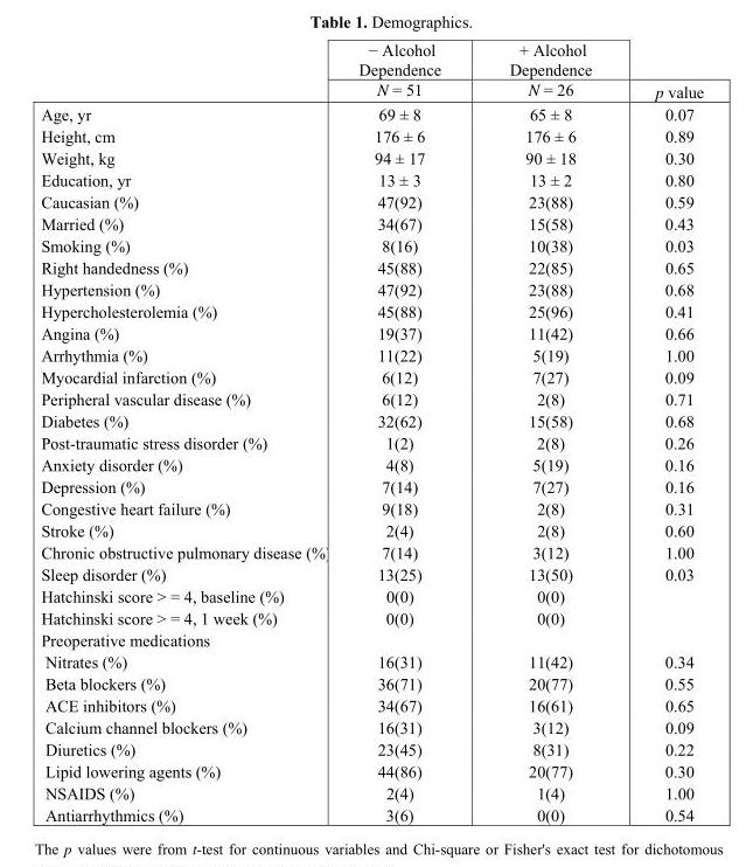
<table><thead><tr><td rowspan="2"></td><td rowspan="2">− Alcohol Dependence N = 51</td><td rowspan="2">+ Alcohol Dependence N = 26</td><td rowspan="2">p value</td></tr><tr></tr></thead><tbody><tr><td>Age, yr</td><td>69 ± 8</td><td>65 ± 8</td><td>0.07</td></tr><tr><td>Height, cm</td><td>176 ± 6</td><td>176 ± 6</td><td>0.89</td></tr><tr><td>Weight, kg</td><td>94 ± 17</td><td>90 ± 18</td><td>0.30</td></tr><tr><td>Education, yr</td><td>13 ± 3</td><td>13 ± 2</td><td>0.80</td></tr><tr><td>Caucasian (%)</td><td>47(92)</td><td>23(88)</td><td>0.59</td></tr><tr><td>Married (%)</td><td>34(67)</td><td>15(58)</td><td>0.43</td></tr><tr><td>Smoking (%)</td><td>8(16)</td><td>10(38)</td><td>0.03</td></tr><tr><td>Right handedness (%)</td><td>45(88)</td><td>22(85)</td><td>0.65</td></tr><tr><td>Hypertension (%)</td><td>47(92)</td><td>23(88)</td><td>0.68</td></tr><tr><td>Hypercholesterolemia (%)</td><td>45(88)</td><td>25(96)</td><td>0.41</td></tr><tr><td>Angina (%)</td><td>19(37)</td><td>11(42)</td><td>0.66</td></tr><tr><td>Arrhythmia (%)</td><td>11(22)</td><td>5(19)</td><td>1.00</td></tr><tr><td>Myocardial infarction (%)</td><td>6(12)</td><td>7(27)</td><td>0.09</td></tr><tr><td>Peripheral vascular disease (%)</td><td>6(12)</td><td>2(8)</td><td>0.71</td></tr><tr><td>Diabetes (%)</td><td>32(62)</td><td>15(58)</td><td>0.68</td></tr><tr><td>Post-traumatic stress disorder (%)</td><td>1(2)</td><td>2(8)</td><td>0.26</td></tr><tr><td>Anxiety disorder (%)</td><td>4(8)</td><td>5(19)</td><td>0.16</td></tr><tr><td>Depression (%)</td><td>7(14)</td><td>7(27)</td><td>0.16</td></tr><tr><td>Congestive heart failure (%)</td><td>9(18)</td><td>2(8)</td><td>0.31</td></tr><tr><td>Stroke (%)</td><td>2(4)</td><td>2(8)</td><td>0.60</td></tr><tr><td>Chronic obstructive pulmonary disease (%)</td><td>7(14)</td><td>3(12)</td><td>1.00</td></tr><tr><td>Sleep disorder (%)</td><td>13(25)</td><td>13(50)</td><td>0.03</td></tr><tr><td>Hatchinski score &gt; = 4, baseline (%)</td><td>0(0)</td><td>0(0)</td><td></td></tr><tr><td>Hatchinski score &gt; = 4, 1 week (%)</td><td>0(0)</td><td>0(0)</td><td></td></tr><tr><td colspan="4">Preoperative medications</td></tr><tr><td>Nitrates (%)</td><td>16(31)</td><td>11(42)</td><td>0.34</td></tr><tr><td>Beta blockers (%)</td><td>36(71)</td><td>20(77)</td><td>0.55</td></tr><tr><td>ACE inhibitors (%)</td><td>34(67)</td><td>16(61)</td><td>0.65</td></tr><tr><td>Calcium channel blockers (%)</td><td>16(31)</td><td>3(12)</td><td>0.09</td></tr><tr><td>Diuretics (%)</td><td>23(45)</td><td>8(31)</td><td>0.22</td></tr><tr><td>Lipid lowering agents (%)</td><td>44(86)</td><td>20(77)</td><td>0.30</td></tr><tr><td>NSAIDS (%)</td><td>2(4)</td><td>1(4)</td><td>1.00</td></tr><tr><td>Antiarrhythmics (%)</td><td>3(6)</td><td>0(0)</td><td>0.54</td></tr></tbody></table>